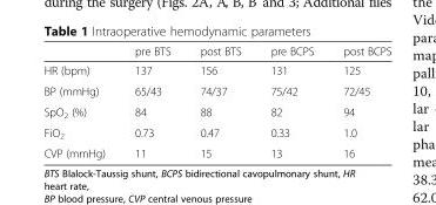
<table><thead><tr><td></td><td>pre BTS</td><td>post BTS</td><td>pre BCPS</td><td>post BCPS</td></tr></thead><tbody><tr><td>HR (bpm)</td><td>137</td><td>156</td><td>131</td><td>125</td></tr><tr><td>BP (mmHg)</td><td>65/43</td><td>74/37</td><td>75/42</td><td>72/45</td></tr><tr><td>SpO<sub>2</sub> (%)</td><td>84</td><td>88</td><td>82</td><td>94</td></tr><tr><td>FiO<sub>2</sub></td><td>0.73</td><td>0.47</td><td>0.33</td><td>1.0</td></tr><tr><td>CVP (mmHg)</td><td>11</td><td>15</td><td>13</td><td>16</td></tr></tbody></table>